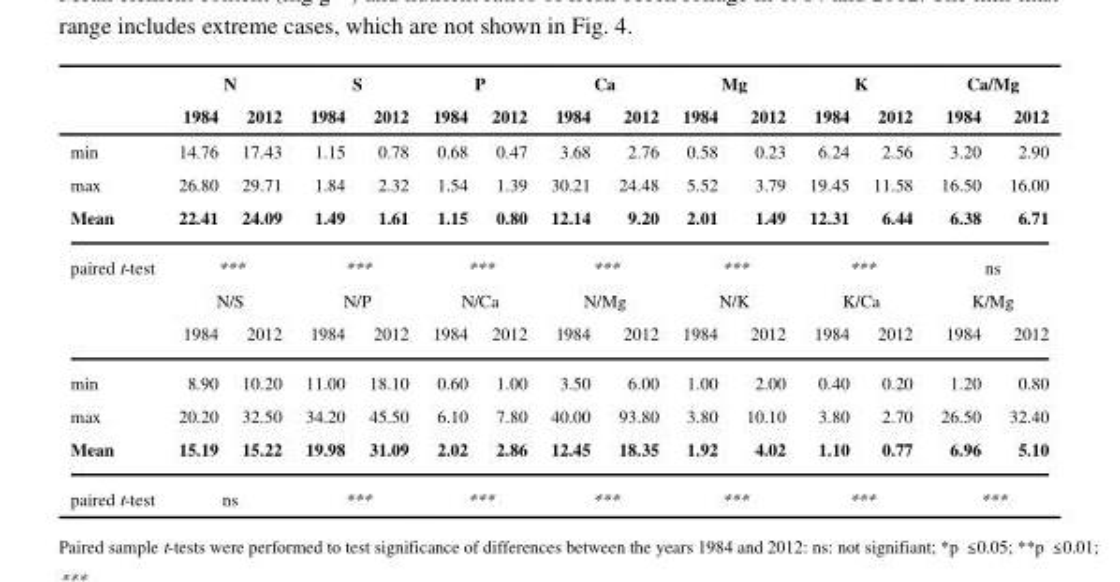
<table><thead><tr><td rowspan="2"></td><td colspan="2">N</td><td colspan="2">S</td><td colspan="2">P</td><td colspan="2">Ca</td><td colspan="2">Mg</td><td colspan="2">K</td><td colspan="2">Ca/Mg</td></tr><tr><td>1984</td><td>2012</td><td>1984</td><td>2012</td><td>1984</td><td>2012</td><td>1984</td><td>2012</td><td>1984</td><td>2012</td><td>1984</td><td>2012</td><td>1984</td><td>2012</td></tr></thead><tbody><tr><td>min</td><td>14.76</td><td>17.43</td><td>1.15</td><td>0.78</td><td>0.68</td><td>0.47</td><td>3.68</td><td>2.76</td><td>0.58</td><td>0.23</td><td>6.24</td><td>2.56</td><td>3.20</td><td>2.90</td></tr><tr><td>max</td><td>26.80</td><td>29.71</td><td>1.84</td><td>2.32</td><td>1.54</td><td>1.39</td><td>30.21</td><td>24.48</td><td>5.52</td><td>3.79</td><td>19.45</td><td>11.58</td><td>16.50</td><td>16.00</td></tr><tr><td>Mean</td><td>22.41</td><td>24.09</td><td>1.49</td><td>1.61</td><td>1.15</td><td>0.80</td><td>12.14</td><td>9.20</td><td>2.01</td><td>1.49</td><td>12.31</td><td>6.44</td><td>6.38</td><td>6.71</td></tr><tr><td rowspan="3">paired t-test</td><td colspan="2">***</td><td colspan="2">***</td><td colspan="2">***</td><td colspan="2">***</td><td colspan="2">***</td><td colspan="2">***</td><td colspan="2">ns</td></tr><tr><td colspan="2">N/S</td><td colspan="2">N/P</td><td colspan="2">N/Ca</td><td colspan="2">N/Mg</td><td colspan="2">N/K</td><td colspan="2">K/Ca</td><td colspan="2">K/Mg</td></tr><tr><td>1984</td><td>2012</td><td>1984</td><td>2012</td><td>1984</td><td>2012</td><td>1984</td><td>2012</td><td>1984</td><td>2012</td><td>1984</td><td>2012</td><td>1984</td><td>2012</td></tr><tr><td>min</td><td>8.90</td><td>10.20</td><td>11.00</td><td>18.10</td><td>0.60</td><td>1.00</td><td>3.50</td><td>6.00</td><td>1.00</td><td>2.00</td><td>0.40</td><td>0.20</td><td>1.20</td><td>0.80</td></tr><tr><td>max</td><td>20.20</td><td>32.50</td><td>34.20</td><td>45.50</td><td>6.10</td><td>7.80</td><td>40.00</td><td>93.80</td><td>3.80</td><td>10.10</td><td>3.80</td><td>2.70</td><td>26.50</td><td>32.40</td></tr><tr><td>Mean</td><td>15.19</td><td>15.22</td><td>19.98</td><td>31.09</td><td>2.02</td><td>2.86</td><td>12.45</td><td>18.35</td><td>1.92</td><td>4.02</td><td>1.10</td><td>0.77</td><td>6.96</td><td>5.10</td></tr><tr><td>paired t-test</td><td colspan="2">ns</td><td colspan="2">***</td><td colspan="2">***</td><td colspan="2">***</td><td colspan="2">***</td><td colspan="2">***</td><td colspan="2">***</td></tr></tbody></table>